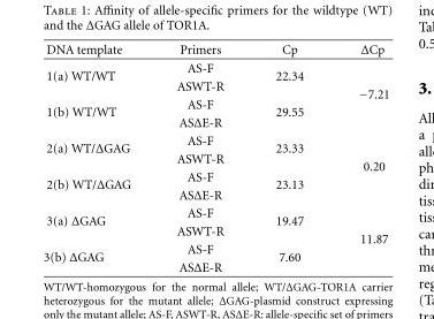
<table><thead><tr><td>DNA template</td><td>Primers</td><td>Cp</td><td>ΔCp</td></tr></thead><tbody><tr><td rowspan="2">1(a) WT/WT</td><td>AS-F</td><td rowspan="2">22.34</td><td rowspan="4">−7.21</td></tr><tr><td>ASWT-R</td></tr><tr><td rowspan="2">1(b) WT/WT</td><td>AS-F</td><td rowspan="2">29.55</td></tr><tr><td>ASΔE-R</td></tr><tr><td rowspan="2">2(a) WT/ΔGAG</td><td>AS-F</td><td rowspan="2">23.33</td><td rowspan="4">0.20</td></tr><tr><td>ASWT-R</td></tr><tr><td rowspan="2">2(b) WT/ΔGAG</td><td>AS-F</td><td rowspan="2">23.13</td></tr><tr><td>ASΔE-R</td></tr><tr><td rowspan="2">3(a) ΔGAG</td><td>AS-F</td><td rowspan="2">19.47</td><td rowspan="4">11.87</td></tr><tr><td>ASWT-R</td></tr><tr><td rowspan="2">3(b) ΔGAG</td><td>AS-F</td><td rowspan="2">7.60</td></tr><tr><td>ASΔE-R</td></tr></tbody></table>